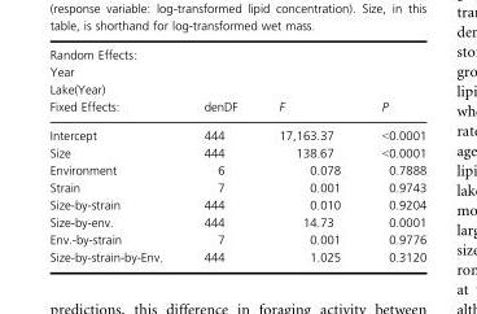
<table><thead><tr><td colspan="4">Random Effects:</td></tr><tr><td rowspan="3">Year Lake(Year) Fixed Effects:</td><td rowspan="3">denDF</td><td rowspan="3">F</td><td rowspan="3">P</td></tr><tr></tr><tr></tr></thead><tbody><tr><td>Intercept</td><td>444</td><td>17,163.37</td><td>&lt;0.0001</td></tr><tr><td>Size</td><td>444</td><td>138.67</td><td>&lt;0.0001</td></tr><tr><td>Environment</td><td>6</td><td>0.078</td><td>0.7888</td></tr><tr><td>Strain</td><td>7</td><td>0.001</td><td>0.9743</td></tr><tr><td>Size-by-strain</td><td>444</td><td>0.010</td><td>0.9204</td></tr><tr><td>Size-by-env.</td><td>444</td><td>14.73</td><td>0.0001</td></tr><tr><td>Env.-by-strain</td><td>7</td><td>0.001</td><td>0.9776</td></tr><tr><td>Size-by-strain-by-Env.</td><td>444</td><td>1.025</td><td>0.3120</td></tr></tbody></table>